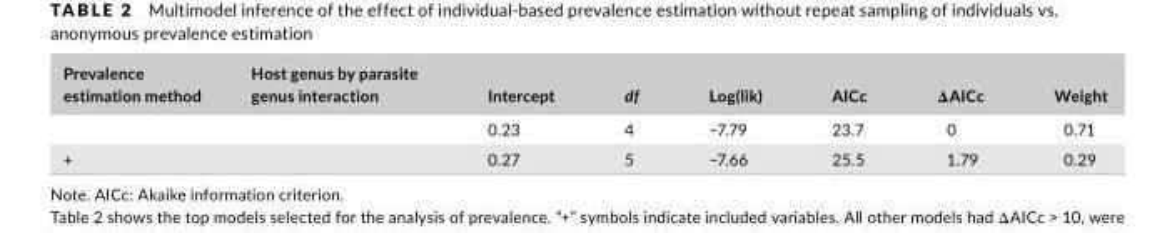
<table><thead><tr><td>Prevalence estimation method</td><td>Host genus by parasite genus interaction</td><td>Intercept</td><td>df</td><td>Log(lik)</td><td>AICc</td><td>ΔAICc</td><td>Weight</td></tr></thead><tbody><tr><td></td><td></td><td>0.23</td><td>4</td><td>−7.79</td><td>23.7</td><td>0</td><td>0.71</td></tr><tr><td>+</td><td></td><td>0.27</td><td>5</td><td>−7.66</td><td>25.5</td><td>1.79</td><td>0.29</td></tr></tbody></table>